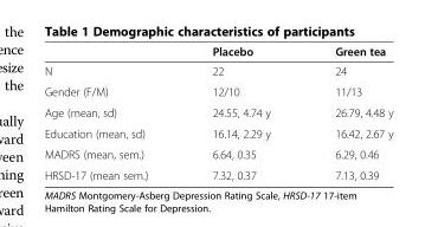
<table><thead><tr><td></td><td>Placebo</td><td>Green tea</td></tr></thead><tbody><tr><td>N</td><td>22</td><td>24</td></tr><tr><td>Gender (F/M)</td><td>12/10</td><td>11/13</td></tr><tr><td>Age (mean, sd)</td><td>24.55, 4.74 y</td><td>26.79, 4.48 y</td></tr><tr><td>Education (mean, sd)</td><td>16.14, 2.29 y</td><td>16.42, 2.67 y</td></tr><tr><td>MADRS (mean, sem.)</td><td>6.64, 0.35</td><td>6.29, 0.46</td></tr><tr><td>HRSD-17 (mean sem.)</td><td>7.32, 0.37</td><td>7.13, 0.39</td></tr></tbody></table>